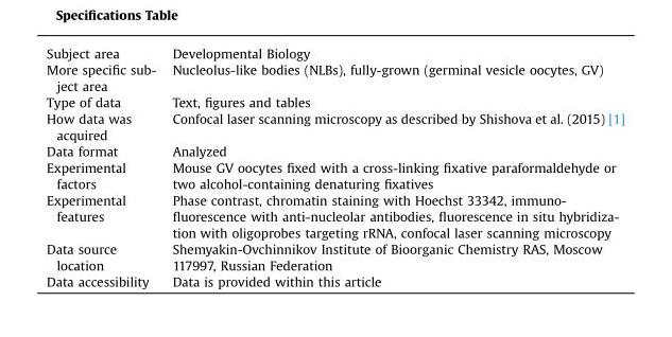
<table><tbody><tr><td>Subject area</td><td>Developmental Biology</td></tr><tr><td>More specific sub- ject area</td><td>Nucleolus-like bodies (NLBs), fully-grown (germinal vesicle oocytes, GV)</td></tr><tr><td>Type of data</td><td>Text, figures and tables</td></tr><tr><td>How data was acquired</td><td>Confocal laser scanning microscopy as described by Shishova et al. (2015) [1]</td></tr><tr><td>Data format</td><td>Analyzed</td></tr><tr><td>Experimental factors</td><td>Mouse GV oocytes fixed with a cross-linking fixative paraformaldehyde or two alcohol-containing denaturing fixatives</td></tr><tr><td>Experimental features</td><td>Phase contrast, chromatin staining with Hoechst 33342, immuno- fluorescence with anti-nucleolar antibodies, fluorescence in situ hybridiza- tion with oligoprobes targeting rRNA, confocal laser scanning microscopy</td></tr><tr><td>Data source location</td><td>Shemyakin-Ovchinnikov Institute of Bioorganic Chemistry RAS, Moscow 117997, Russian Federation</td></tr><tr><td>Data accessibility</td><td>Data is provided within this article</td></tr></tbody></table>